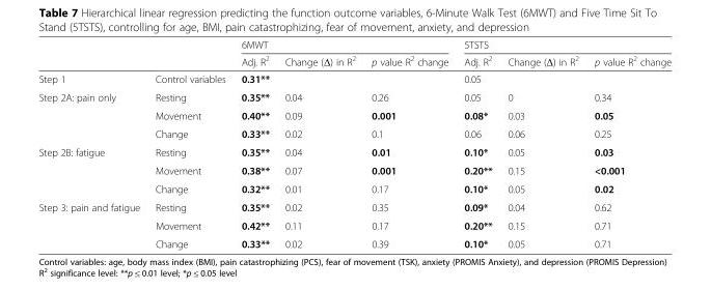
<table><thead><tr><td rowspan="2"></td><td rowspan="2"></td><td colspan="3">6MWT</td><td colspan="3">5TSTS</td></tr><tr><td>Adj. R<sup>2</sup></td><td>Change (Δ) in R<sup>2</sup></td><td>p value R<sup>2</sup> change</td><td>Adj. R<sup>2</sup></td><td>Change (Δ) in R<sup>2</sup></td><td>p value R<sup>2</sup> change</td></tr></thead><tbody><tr><td>Step 1</td><td>Control variables</td><td>0.31**</td><td></td><td></td><td>0.05</td><td></td><td></td></tr><tr><td rowspan="3">Step 2A: pain only</td><td>Resting</td><td>0.35**</td><td>0.04</td><td>0.26</td><td>0.05</td><td>0</td><td>0.34</td></tr><tr><td>Movement</td><td>0.40**</td><td>0.09</td><td>0.001</td><td>0.08*</td><td>0.03</td><td>0.05</td></tr><tr><td>Change</td><td>0.33**</td><td>0.02</td><td>0.1</td><td>0.06</td><td>0.06</td><td>0.25</td></tr><tr><td rowspan="3">Step 2B: fatigue</td><td>Resting</td><td>0.35**</td><td>0.04</td><td>0.01</td><td>0.10*</td><td>0.05</td><td>0.03</td></tr><tr><td>Movement</td><td>0.38**</td><td>0.07</td><td>0.001</td><td>0.20**</td><td>0.15</td><td>&lt;0.001</td></tr><tr><td>Change</td><td>0.32**</td><td>0.01</td><td>0.17</td><td>0.10*</td><td>0.05</td><td>0.02</td></tr><tr><td rowspan="3">Step 3: pain and fatigue</td><td>Resting</td><td>0.35**</td><td>0.02</td><td>0.35</td><td>0.09*</td><td>0.04</td><td>0.62</td></tr><tr><td>Movement</td><td>0.42**</td><td>0.11</td><td>0.17</td><td>0.20**</td><td>0.15</td><td>0.71</td></tr><tr><td>Change</td><td>0.33**</td><td>0.02</td><td>0.39</td><td>0.10*</td><td>0.05</td><td>0.71</td></tr></tbody></table>